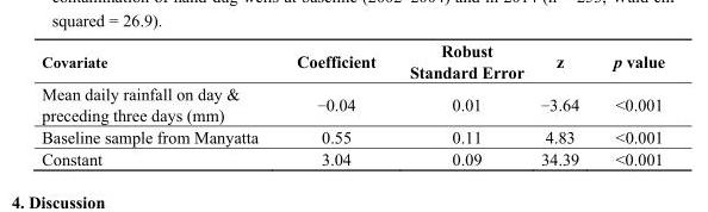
<table><thead><tr><td>Covariate</td><td>Coefficient</td><td>Robust Standard Error</td><td>z</td><td>p value</td></tr></thead><tbody><tr><td>Mean daily rainfall on day &amp; preceding three days (mm)</td><td>−0.04</td><td>0.01</td><td>−3.64</td><td>&lt;0.001</td></tr><tr><td>Baseline sample from Manyatta</td><td>0.55</td><td>0.11</td><td>4.83</td><td>&lt;0.001</td></tr><tr><td>Constant</td><td>3.04</td><td>0.09</td><td>34.39</td><td>&lt;0.001</td></tr></tbody></table>